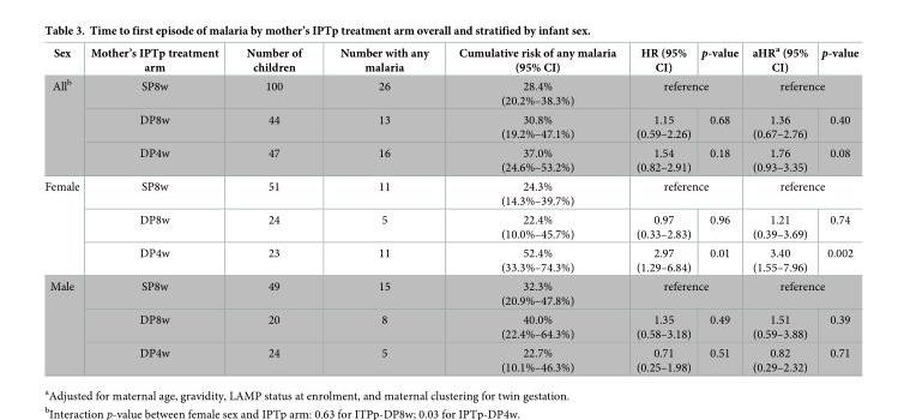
<table><thead><tr><td>Sex</td><td>Mother’s IPTp treatment arm</td><td>Number of children</td><td>Number with any malaria</td><td>Cumulative risk of any malaria (95% CI)</td><td>HR (95% CI)</td><td>p-value</td><td>aHR<sup>a</sup> (95% CI)</td><td>p-value</td></tr></thead><tbody><tr><td rowspan="3">All<sup>b</sup></td><td>SP8w</td><td>100</td><td>26</td><td>28.4% (20.2%–38.3%)</td><td colspan="2">reference</td><td colspan="2">reference</td></tr><tr><td>DP8w</td><td>44</td><td>13</td><td>30.8% (19.2%–47.1%)</td><td>1.15 (0.59–2.26)</td><td>0.68</td><td>1.36 (0.67–2.76)</td><td>0.40</td></tr><tr><td>DP4w</td><td>47</td><td>16</td><td>37.0% (24.6%–53.2%)</td><td>1.54 (0.82–2.91)</td><td>0.18</td><td>1.76 (0.93–3.35)</td><td>0.08</td></tr><tr><td rowspan="3">Female</td><td>SP8w</td><td>51</td><td>11</td><td>24.3% (14.3%–39.7%)</td><td colspan="2">reference</td><td colspan="2">reference</td></tr><tr><td>DP8w</td><td>24</td><td>5</td><td>22.4% (10.0%–45.7%)</td><td>0.97 (0.33–2.83)</td><td>0.96</td><td>1.21 (0.39–3.69)</td><td>0.74</td></tr><tr><td>DP4w</td><td>23</td><td>11</td><td>52.4% (33.3%–74.3%)</td><td>2.97 (1.29–6.84)</td><td>0.01</td><td>3.40 (1.55–7.96)</td><td>0.002</td></tr><tr><td rowspan="3">Male</td><td>SP8w</td><td>49</td><td>15</td><td>32.3% (20.9%–47.8%)</td><td colspan="2">reference</td><td colspan="2">reference</td></tr><tr><td>DP8w</td><td>20</td><td>8</td><td>40.0% (22.4%–64.3%)</td><td>1.35 (0.58–3.18)</td><td>0.49</td><td>1.51 (0.59–3.88)</td><td>0.39</td></tr><tr><td>DP4w</td><td>24</td><td>5</td><td>22.7% (10.1%–46.3%)</td><td>0.71 (0.25–1.98)</td><td>0.51</td><td>0.82 (0.29–2.32)</td><td>0.71</td></tr></tbody></table>